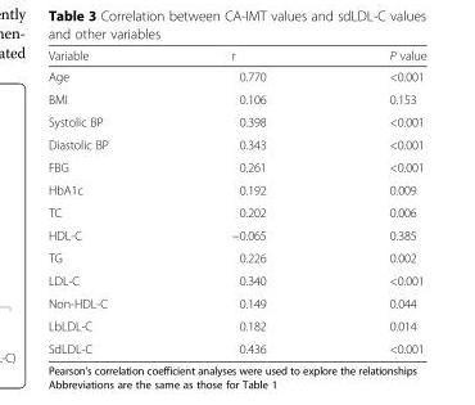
<table><thead><tr><td>Variable</td><td>r</td><td>P value</td></tr></thead><tbody><tr><td>Age</td><td>0.770</td><td>&lt;0.001</td></tr><tr><td>BMI</td><td>0.106</td><td>0.153</td></tr><tr><td>Systolic BP</td><td>0.398</td><td>&lt;0.001</td></tr><tr><td>Diastolic BP</td><td>0.343</td><td>&lt;0.001</td></tr><tr><td>FBG</td><td>0.261</td><td>&lt;0.001</td></tr><tr><td>HbA1c</td><td>0.192</td><td>0.009</td></tr><tr><td>TC</td><td>0.202</td><td>0.006</td></tr><tr><td>HDL-C</td><td>−0.065</td><td>0.385</td></tr><tr><td>TG</td><td>0.226</td><td>0.002</td></tr><tr><td>LDL-C</td><td>0.340</td><td>&lt;0.001</td></tr><tr><td>Non-HDL-C</td><td>0.149</td><td>0.044</td></tr><tr><td>LbLDL-C</td><td>0.182</td><td>0.014</td></tr><tr><td>SdLDL-C</td><td>0.436</td><td>&lt;0.001</td></tr></tbody></table>